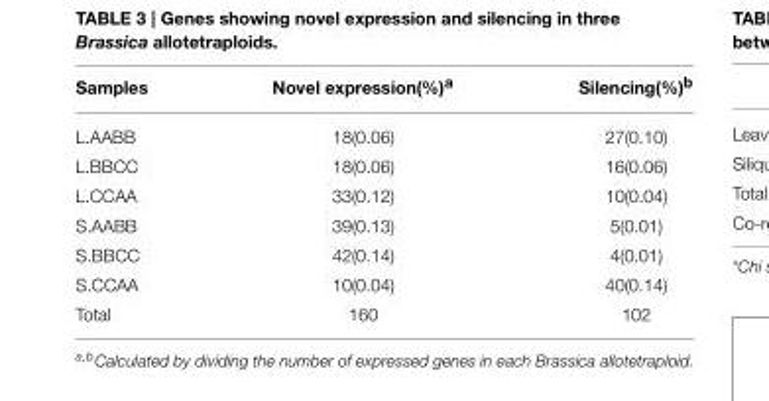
<table><thead><tr><td>Samples</td><td>Novel expression(%)<sup>a</sup></td><td>Silencing(%)<sup>b</sup></td></tr></thead><tbody><tr><td>L.AABB</td><td>18(0.06)</td><td>27(0.10)</td></tr><tr><td>L.BBCC</td><td>18(0.06)</td><td>16(0.06)</td></tr><tr><td>L.CCAA</td><td>33(0.12)</td><td>10(0.04)</td></tr><tr><td>S.AABB</td><td>39(0.13)</td><td>5(0.01)</td></tr><tr><td>S.BBCC</td><td>42(0.14)</td><td>4(0.01)</td></tr><tr><td>S.CCAA</td><td>10(0.04)</td><td>40(0.14)</td></tr><tr><td>Total</td><td>160</td><td>102</td></tr></tbody></table>